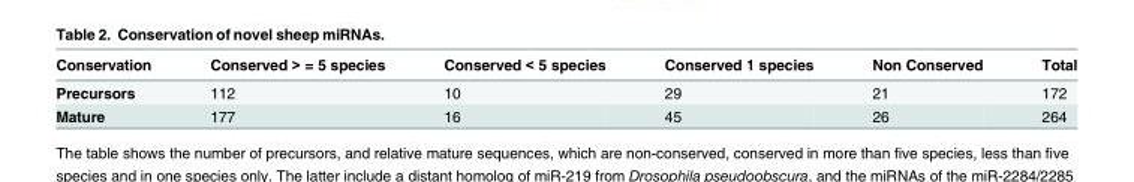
<table><thead><tr><td>Conservation</td><td>Conserved &gt; = 5 species</td><td>Conserved &lt; 5 species</td><td>Conserved 1 species</td><td>Non Conserved</td><td>Total</td></tr></thead><tbody><tr><td>Precursors</td><td>112</td><td>10</td><td>29</td><td>21</td><td>172</td></tr><tr><td>Mature</td><td>177</td><td>16</td><td>45</td><td>26</td><td>264</td></tr></tbody></table>